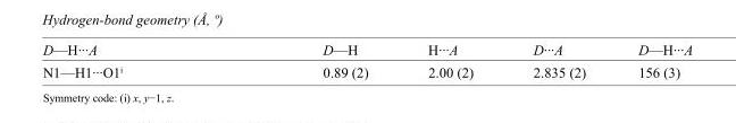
<table><tbody><tr><td>D—H···A</td><td>D—H</td><td>H···A</td><td>D···A</td><td>D—H···A</td></tr><tr><td>N1—H1···O1<sup>i</sup></td><td>0.89 (2)</td><td>2.00 (2)</td><td>2.835 (2)</td><td>156 (3)</td></tr></tbody></table>